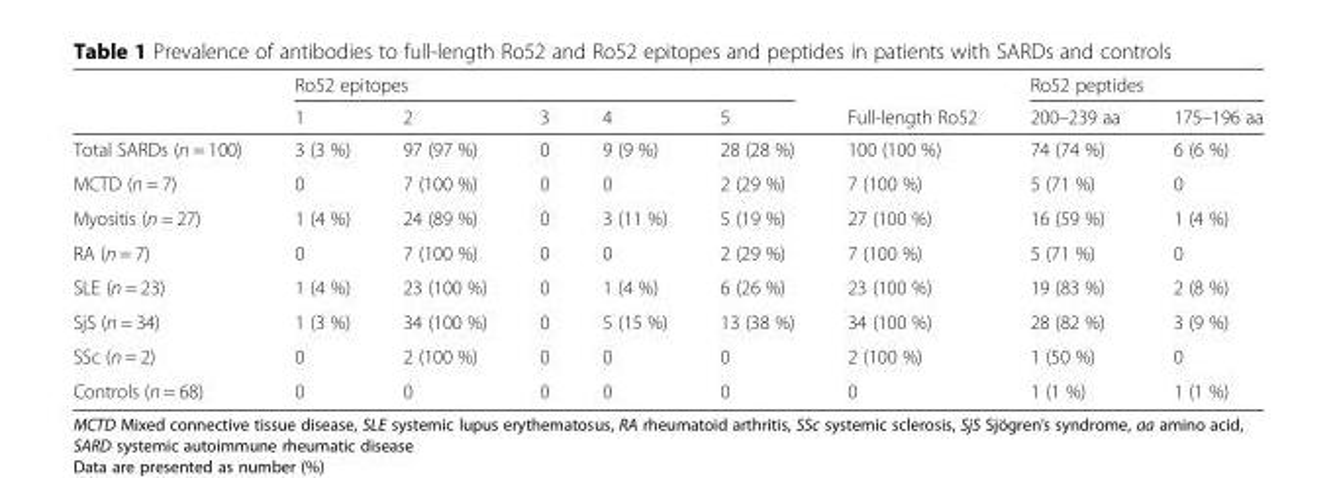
<table><thead><tr><td rowspan="2"></td><td colspan="5">Ro52 epitopes</td><td rowspan="2">Full-length Ro52</td><td colspan="2">Ro52 peptides</td></tr><tr><td>1</td><td>2</td><td>3</td><td>4</td><td>5</td><td>200–239 aa</td><td>175–196 aa</td></tr></thead><tbody><tr><td>Total SARDs (n = 100)</td><td>3 (3 %)</td><td>97 (97 %)</td><td>0</td><td>9 (9 %)</td><td>28 (28 %)</td><td>100 (100 %)</td><td>74 (74 %)</td><td>6 (6 %)</td></tr><tr><td>MCTD (n = 7)</td><td>0</td><td>7 (100 %)</td><td>0</td><td>0</td><td>2 (29 %)</td><td>7 (100 %)</td><td>5 (71 %)</td><td>0</td></tr><tr><td>Myositis (n = 27)</td><td>1 (4 %)</td><td>24 (89 %)</td><td>0</td><td>3 (11 %)</td><td>5 (19 %)</td><td>27 (100 %)</td><td>16 (59 %)</td><td>1 (4 %)</td></tr><tr><td>RA (n = 7)</td><td>0</td><td>7 (100 %)</td><td>0</td><td>0</td><td>2 (29 %)</td><td>7 (100 %)</td><td>5 (71 %)</td><td>0</td></tr><tr><td>SLE (n = 23)</td><td>1 (4 %)</td><td>23 (100 %)</td><td>0</td><td>1 (4 %)</td><td>6 (26 %)</td><td>23 (100 %)</td><td>19 (83 %)</td><td>2 (8 %)</td></tr><tr><td>SjS (n = 34)</td><td>1 (3 %)</td><td>34 (100 %)</td><td>0</td><td>5 (15 %)</td><td>13 (38 %)</td><td>34 (100 %)</td><td>28 (82 %)</td><td>3 (9 %)</td></tr><tr><td>SSc (n = 2)</td><td>0</td><td>2 (100 %)</td><td>0</td><td>0</td><td>0</td><td>2 (100 %)</td><td>1 (50 %)</td><td>0</td></tr><tr><td>Controls (n = 68)</td><td>0</td><td>0</td><td>0</td><td>0</td><td>0</td><td>0</td><td>1 (1 %)</td><td>1 (1 %)</td></tr></tbody></table>